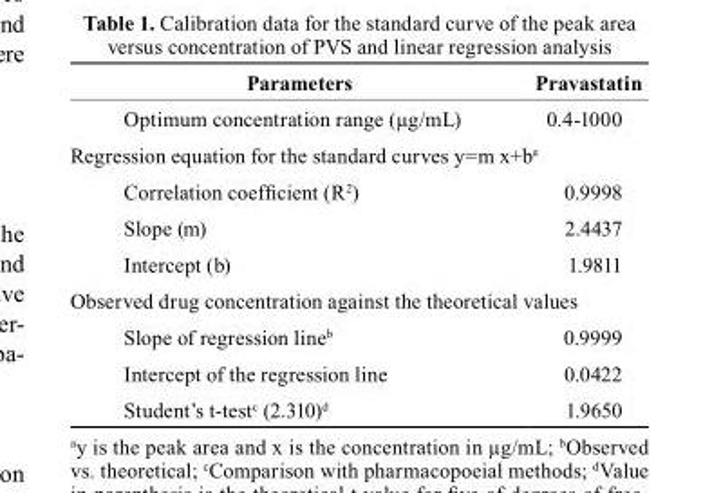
<table><thead><tr><td>Parameters</td><td>Pravastatin</td></tr></thead><tbody><tr><td>Optimum concentration range (µg/mL)</td><td>0.4-1000</td></tr><tr><td colspan="2">Regression equation for the standard curves y=m x+b<sup>a</sup></td></tr><tr><td>Correlation coefficient (R<sup>2</sup>)</td><td>0.9998</td></tr><tr><td>Slope (m)</td><td>2.4437</td></tr><tr><td>Intercept (b)</td><td>1.9811</td></tr><tr><td colspan="2">Observed drug concentration against the theoretical values</td></tr><tr><td>Slope of regression line<sup>b</sup></td><td>0.9999</td></tr><tr><td>Intercept of the regression line</td><td>0.0422</td></tr><tr><td>Student’s t-test<sup>c</sup> (2.310)<sup>d</sup></td><td>1.9650</td></tr></tbody></table>